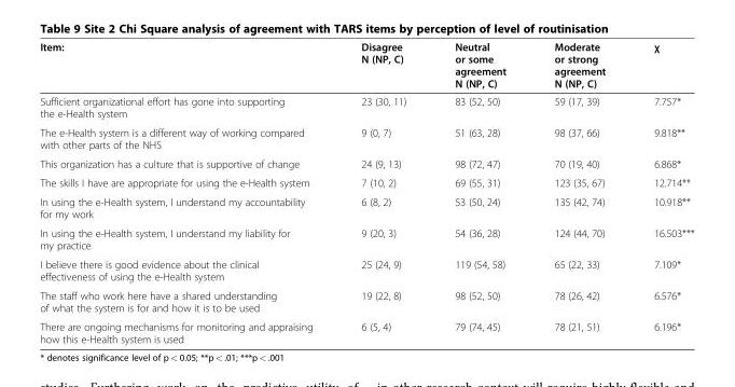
<table><thead><tr><td>Item:</td><td>Disagree N (NP, C)</td><td>Neutral or some agreement N (NP, C)</td><td>Moderate or strong agreement N (NP, C)</td><td>χ</td></tr></thead><tbody><tr><td>Sufficient organizational effort has gone into supporting the e-Health system</td><td>23 (30, 11)</td><td>83 (52, 50)</td><td>59 (17, 39)</td><td>7.757*</td></tr><tr><td>The e-Health system is a different way of working compared with other parts of the NHS</td><td>9 (0, 7)</td><td>51 (63, 28)</td><td>98 (37, 66)</td><td>9.818**</td></tr><tr><td>This organization has a culture that is supportive of change</td><td>24 (9, 13)</td><td>98 (72, 47)</td><td>70 (19, 40)</td><td>6.868*</td></tr><tr><td>The skills I have are appropriate for using the e-Health system</td><td>7 (10, 2)</td><td>69 (55, 31)</td><td>123 (35, 67)</td><td>12.714**</td></tr><tr><td>In using the e-Health system, I understand my accountability for my work</td><td>6 (8, 2)</td><td>53 (50, 24)</td><td>135 (42, 74)</td><td>10.918**</td></tr><tr><td>In using the e-Health system, I understand my liability for my practice</td><td>9 (20, 3)</td><td>54 (36, 28)</td><td>124 (44, 70)</td><td>16.503***</td></tr><tr><td>I believe there is good evidence about the clinical effectiveness of using the e-Health system</td><td>25 (24, 9)</td><td>119 (54, 58)</td><td>65 (22, 33)</td><td>7.109*</td></tr><tr><td>The staff who work here have a shared understanding of what the system is for and how it is to be used</td><td>19 (22, 8)</td><td>98 (52, 50)</td><td>78 (26, 42)</td><td>6.576*</td></tr><tr><td>There are ongoing mechanisms for monitoring and appraising how this e-Health system is used</td><td>6 (5, 4)</td><td>79 (74, 45)</td><td>78 (21, 51)</td><td>6.196*</td></tr></tbody></table>